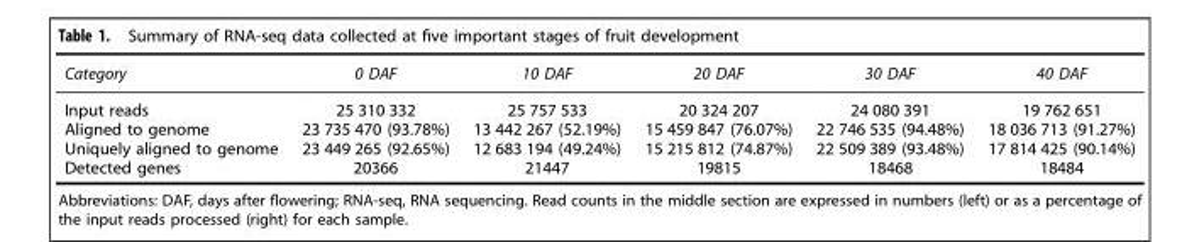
<table><thead><tr><td>Category</td><td>0 DAF</td><td>10 DAF</td><td>20 DAF</td><td>30 DAF</td><td>40 DAF</td></tr></thead><tbody><tr><td>Input reads</td><td>25 310 332</td><td>25 757 533</td><td>20 324 207</td><td>24 080 391</td><td>19 762 651</td></tr><tr><td>Aligned to genome</td><td>23 735 470 (93.78%)</td><td>13 442 267 (52.19%)</td><td>15 459 847 (76.07%)</td><td>22 746 535 (94.48%)</td><td>18 036 713 (91.27%)</td></tr><tr><td>Uniquely aligned to genome</td><td>23 449 265 (92.65%)</td><td>12 683 194 (49.24%)</td><td>15 215 812 (74.87%)</td><td>22 509 389 (93.48%)</td><td>17 814 425 (90.14%)</td></tr><tr><td>Detected genes</td><td>20366</td><td>21447</td><td>19815</td><td>18468</td><td>18484</td></tr></tbody></table>